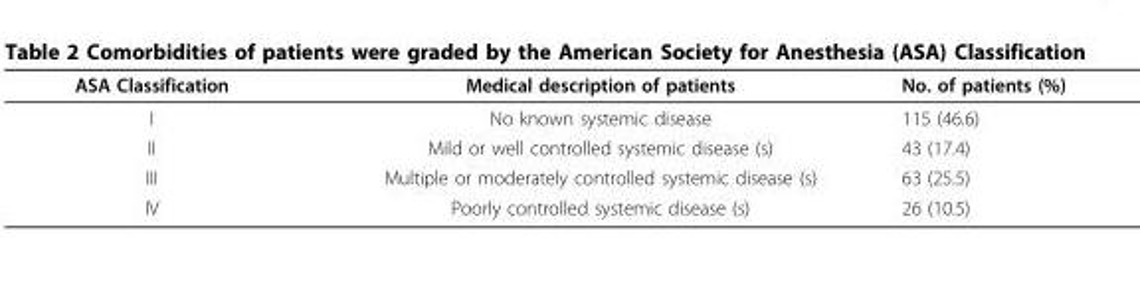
<table><thead><tr><td>ASA Classification</td><td>Medical description of patients</td><td>No. of patients (%)</td></tr></thead><tbody><tr><td>I</td><td>No known systemic disease</td><td>115 (46.6)</td></tr><tr><td>II</td><td>Mild or well controlled systemic disease (s)</td><td>43 (17.4)</td></tr><tr><td>III</td><td>Multiple or moderately controlled systemic disease (s)</td><td>63 (25.5)</td></tr><tr><td>IV</td><td>Poorly controlled systemic disease (s)</td><td>26 (10.5)</td></tr></tbody></table>